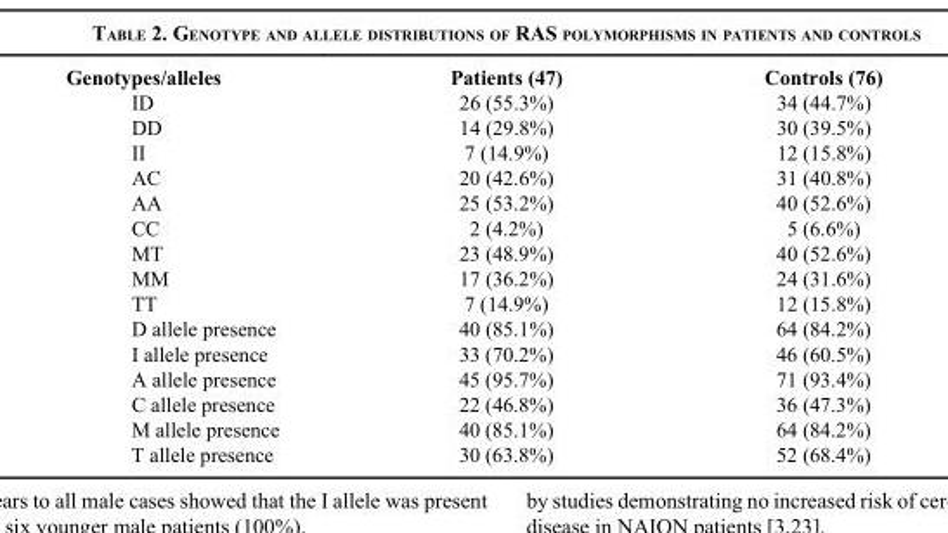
<table><thead><tr><td>Genotypes/alleles</td><td>Patients (47)</td><td>Controls (76)</td></tr></thead><tbody><tr><td>ID</td><td>26 (55.3%)</td><td>34 (44.7%)</td></tr><tr><td>DD</td><td>14 (29.8%)</td><td>30 (39.5%)</td></tr><tr><td>II</td><td>7 (14.9%)</td><td>12 (15.8%)</td></tr><tr><td>AC</td><td>20 (42.6%)</td><td>31 (40.8%)</td></tr><tr><td>AA</td><td>25 (53.2%)</td><td>40 (52.6%)</td></tr><tr><td>CC</td><td>2 (4.2%)</td><td>5 (6.6%)</td></tr><tr><td>MT</td><td>23 (48.9%)</td><td>40 (52.6%)</td></tr><tr><td>MM</td><td>17 (36.2%)</td><td>24 (31.6%)</td></tr><tr><td>TT</td><td>7 (14.9%)</td><td>12 (15.8%)</td></tr><tr><td>D allele presence</td><td>40 (85.1%)</td><td>64 (84.2%)</td></tr><tr><td>I allele presence</td><td>33 (70.2%)</td><td>46 (60.5%)</td></tr><tr><td>A allele presence</td><td>45 (95.7%)</td><td>71 (93.4%)</td></tr><tr><td>C allele presence</td><td>22 (46.8%)</td><td>36 (47.3%)</td></tr><tr><td>M allele presence</td><td>40 (85.1%)</td><td>64 (84.2%)</td></tr><tr><td>T allele presence</td><td>30 (63.8%)</td><td>52 (68.4%)</td></tr></tbody></table>